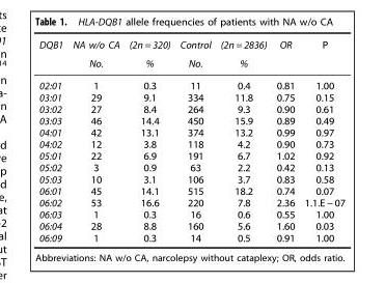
<table><thead><tr><td rowspan="2">DQB1</td><td rowspan="2">NA w/o CA No.</td><td rowspan="2">(2n = 320) %</td><td rowspan="2">Control No.</td><td rowspan="2">(2n = 2836) %</td><td rowspan="2">OR</td><td rowspan="2">P</td></tr><tr></tr></thead><tbody><tr><td>02:01</td><td>1</td><td>0.3</td><td>11</td><td>0.4</td><td>0.81</td><td>1.00</td></tr><tr><td>03:01</td><td>29</td><td>9.1</td><td>334</td><td>11.8</td><td>0.75</td><td>0.15</td></tr><tr><td>03:02</td><td>27</td><td>8.4</td><td>264</td><td>9.3</td><td>0.90</td><td>0.61</td></tr><tr><td>03:03</td><td>46</td><td>14.4</td><td>450</td><td>15.9</td><td>0.89</td><td>0.49</td></tr><tr><td>04:01</td><td>42</td><td>13.1</td><td>374</td><td>13.2</td><td>0.99</td><td>0.97</td></tr><tr><td>04:02</td><td>12</td><td>3.8</td><td>118</td><td>4.2</td><td>0.90</td><td>0.73</td></tr><tr><td>05:01</td><td>22</td><td>6.9</td><td>191</td><td>6.7</td><td>1.02</td><td>0.92</td></tr><tr><td>05:02</td><td>3</td><td>0.9</td><td>63</td><td>2.2</td><td>0.42</td><td>0.13</td></tr><tr><td>05:03</td><td>10</td><td>3.1</td><td>106</td><td>3.7</td><td>0.83</td><td>0.58</td></tr><tr><td>06:01</td><td>45</td><td>14.1</td><td>515</td><td>18.2</td><td>0.74</td><td>0.07</td></tr><tr><td>06:02</td><td>53</td><td>16.6</td><td>220</td><td>7.8</td><td>2.36</td><td>1.1.E − 07</td></tr><tr><td>06:03</td><td>1</td><td>0.3</td><td>16</td><td>0.6</td><td>0.55</td><td>1.00</td></tr><tr><td>06:04</td><td>28</td><td>8.8</td><td>160</td><td>5.6</td><td>1.60</td><td>0.03</td></tr><tr><td>06:09</td><td>1</td><td>0.3</td><td>14</td><td>0.5</td><td>0.91</td><td>1.00</td></tr></tbody></table>